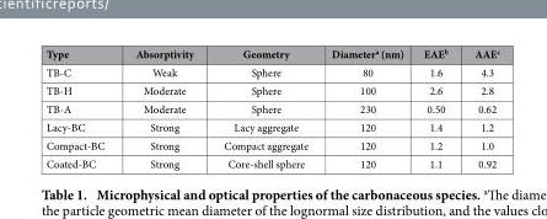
<table><thead><tr><td>Type</td><td>Absorptivity</td><td>Geometry</td><td>Diameter<sup>a</sup> (nm)</td><td>EAE<sup>b</sup></td><td>AAE<sup>c</sup></td></tr></thead><tbody><tr><td>TB-C</td><td>Weak</td><td>Sphere</td><td>80</td><td>1.6</td><td>4.3</td></tr><tr><td>TB-H</td><td>Moderate</td><td>Sphere</td><td>100</td><td>2.6</td><td>2.8</td></tr><tr><td>TB-A</td><td>Moderate</td><td>Sphere</td><td>230</td><td>0.50</td><td>0.62</td></tr><tr><td>Lacy-BC</td><td>Strong</td><td>Lacy aggregate</td><td>120</td><td>1.4</td><td>1.2</td></tr><tr><td>Compact-BC</td><td>Strong</td><td>Compact aggregate</td><td>120</td><td>1.2</td><td>1.0</td></tr><tr><td>Coated-BC</td><td>Strong</td><td>Core-shell sphere</td><td>120</td><td>1.1</td><td>0.92</td></tr></tbody></table>